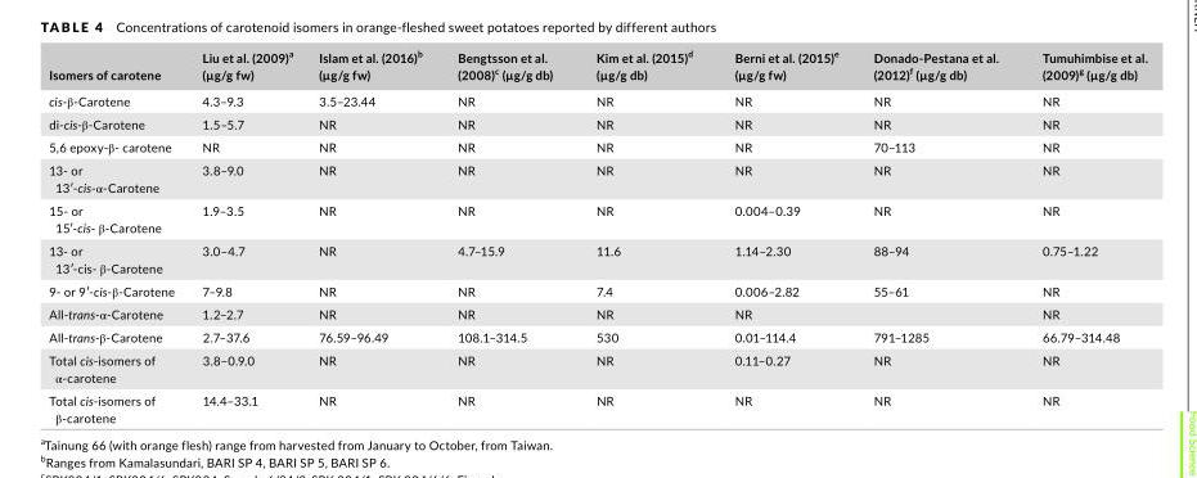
<table><thead><tr><td>Isomers of carotene</td><td>Liu et al. (2009)<sup>a</sup> (µg/g fw)</td><td>Islam et al. (2016)<sup>b</sup> (µg/g fw)</td><td>Bengtsson et al. (2008)<sup>c</sup> (µg/g db)</td><td>Kim et al. (2015)<sup>d</sup> (µg/g db)</td><td>Berni et al. (2015)<sup>e</sup> (µg/g fw)</td><td>Donado‐Pestana et al. (2012)<sup>f</sup> (µg/g db)</td><td>Tumuhimbise et al. (2009)<sup>g</sup> (µg/g db)</td></tr></thead><tbody><tr><td>cis-β-Carotene</td><td>4.3–9.3</td><td>3.5–23.44</td><td>NR</td><td>NR</td><td>NR</td><td>NR</td><td>NR</td></tr><tr><td>di-cis-β-Carotene</td><td>1.5–5.7</td><td>NR</td><td>NR</td><td>NR</td><td>NR</td><td>NR</td><td>NR</td></tr><tr><td>5,6 epoxy-β- carotene</td><td>NR</td><td>NR</td><td>NR</td><td>NR</td><td>NR</td><td>70–113</td><td>NR</td></tr><tr><td>13- or 13′‐cis-α-Carotene</td><td>3.8–9.0</td><td>NR</td><td>NR</td><td>NR</td><td>NR</td><td>NR</td><td>NR</td></tr><tr><td>15- or 15′‐cis- β-Carotene</td><td>1.9–3.5</td><td>NR</td><td>NR</td><td>NR</td><td>0.004–0.39</td><td>NR</td><td>NR</td></tr><tr><td>13- or 13′‐cis‐ β-Carotene</td><td>3.0–4.7</td><td>NR</td><td>4.7–15.9</td><td>11.6</td><td>1.14–2.30</td><td>88–94</td><td>0.75–1.22</td></tr><tr><td>9‐ or 9′‐cis-β-Carotene</td><td>7–9.8</td><td>NR</td><td>NR</td><td>7.4</td><td>0.006–2.82</td><td>55–61</td><td>NR</td></tr><tr><td>All-trans-α-Carotene</td><td>1.2–2.7</td><td>NR</td><td>NR</td><td>NR</td><td>NR</td><td></td><td>NR</td></tr><tr><td>All-trans-β-Carotene</td><td>2.7–37.6</td><td>76.59–96.49</td><td>108.1–314.5</td><td>530</td><td>0.01–114.4</td><td>791–1285</td><td>66.79–314.48</td></tr><tr><td>Total cis-isomers of α-carotene</td><td>3.8–0.9.0</td><td>NR</td><td>NR</td><td>NR</td><td>0.11–0.27</td><td>NR</td><td>NR</td></tr><tr><td>Total cis-isomers of β-carotene</td><td>14.4–33.1</td><td>NR</td><td>NR</td><td>NR</td><td>NR</td><td>NR</td><td>NR</td></tr></tbody></table>